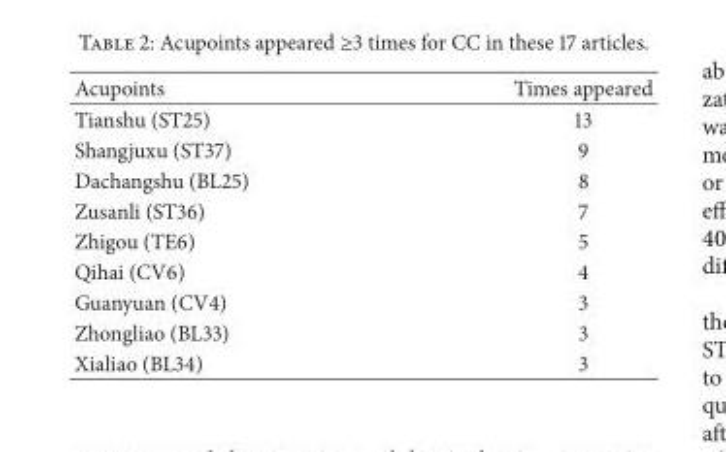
<table><thead><tr><td>Acupoints</td><td>Times appeared</td></tr></thead><tbody><tr><td>Tianshu (ST25)</td><td>13</td></tr><tr><td>Shangjuxu (ST37)</td><td>9</td></tr><tr><td>Dachangshu (BL25)</td><td>8</td></tr><tr><td>Zusanli (ST36)</td><td>7</td></tr><tr><td>Zhigou (TE6)</td><td>5</td></tr><tr><td>Qihai (CV6)</td><td>4</td></tr><tr><td>Guanyuan (CV4)</td><td>3</td></tr><tr><td>Zhongliao (BL33)</td><td>3</td></tr><tr><td>Xialiao (BL34)</td><td>3</td></tr></tbody></table>